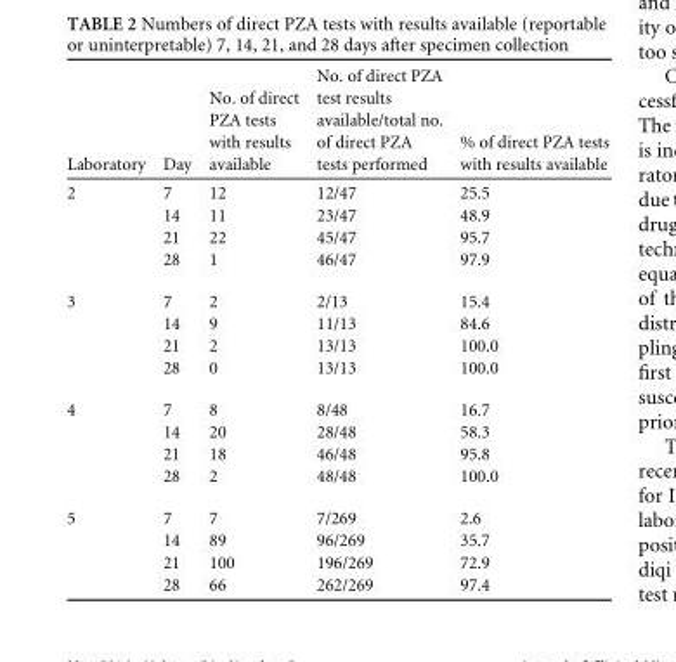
<table><thead><tr><td>Laboratory</td><td>Day</td><td>No. of direct PZA tests with results available</td><td>No. of direct PZA test results available/total no. of direct PZA tests performed</td><td>% of direct PZA tests with results available</td></tr></thead><tbody><tr><td rowspan="4">2</td><td>7</td><td>12</td><td>12/47</td><td>25.5</td></tr><tr><td>14</td><td>11</td><td>23/47</td><td>48.9</td></tr><tr><td>21</td><td>22</td><td>45/47</td><td>95.7</td></tr><tr><td>28</td><td>1</td><td>46/47</td><td>97.9</td></tr><tr><td rowspan="4">3</td><td>7</td><td>2</td><td>2/13</td><td>15.4</td></tr><tr><td>14</td><td>9</td><td>11/13</td><td>84.6</td></tr><tr><td>21</td><td>2</td><td>13/13</td><td>100.0</td></tr><tr><td>28</td><td>0</td><td>13/13</td><td>100.0</td></tr><tr><td rowspan="4">4</td><td>7</td><td>8</td><td>8/48</td><td>16.7</td></tr><tr><td>14</td><td>20</td><td>28/48</td><td>58.3</td></tr><tr><td>21</td><td>18</td><td>46/48</td><td>95.8</td></tr><tr><td>28</td><td>2</td><td>48/48</td><td>100.0</td></tr><tr><td rowspan="4">5</td><td>7</td><td>7</td><td>7/269</td><td>2.6</td></tr><tr><td>14</td><td>89</td><td>96/269</td><td>35.7</td></tr><tr><td>21</td><td>100</td><td>196/269</td><td>72.9</td></tr><tr><td>28</td><td>66</td><td>262/269</td><td>97.4</td></tr></tbody></table>